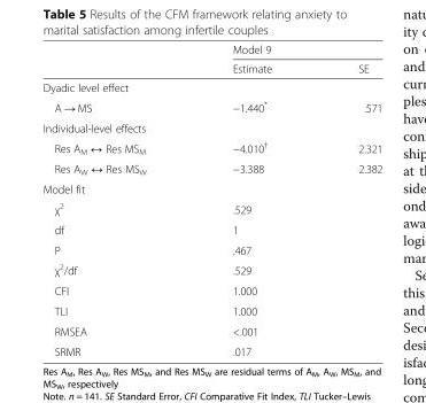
<table><thead><tr><td rowspan="2"></td><td colspan="2">Model 9</td></tr><tr><td>Estimate</td><td>SE</td></tr></thead><tbody><tr><td colspan="3">Dyadic level effect</td></tr><tr><td>A → MS</td><td>−1.440*</td><td>.571</td></tr><tr><td colspan="3">Individual-level effects</td></tr><tr><td>Res A<sub>M</sub> ↔ Res MS<sub>M</sub></td><td>−4.010<sup>†</sup></td><td>2.321</td></tr><tr><td>Res A<sub>W</sub> ↔ Res MS<sub>W</sub></td><td>−3.388</td><td>2.382</td></tr><tr><td colspan="3">Model fit</td></tr><tr><td>χ<sup>2</sup></td><td>.529</td><td></td></tr><tr><td>df</td><td>1</td><td></td></tr><tr><td>P</td><td>.467</td><td></td></tr><tr><td>χ<sup>2</sup>/df</td><td>.529</td><td></td></tr><tr><td>CFI</td><td>1.000</td><td></td></tr><tr><td>TLI</td><td>1.000</td><td></td></tr><tr><td>RMSEA</td><td>&lt;.001</td><td></td></tr><tr><td>SRMR</td><td>.017</td><td></td></tr></tbody></table>